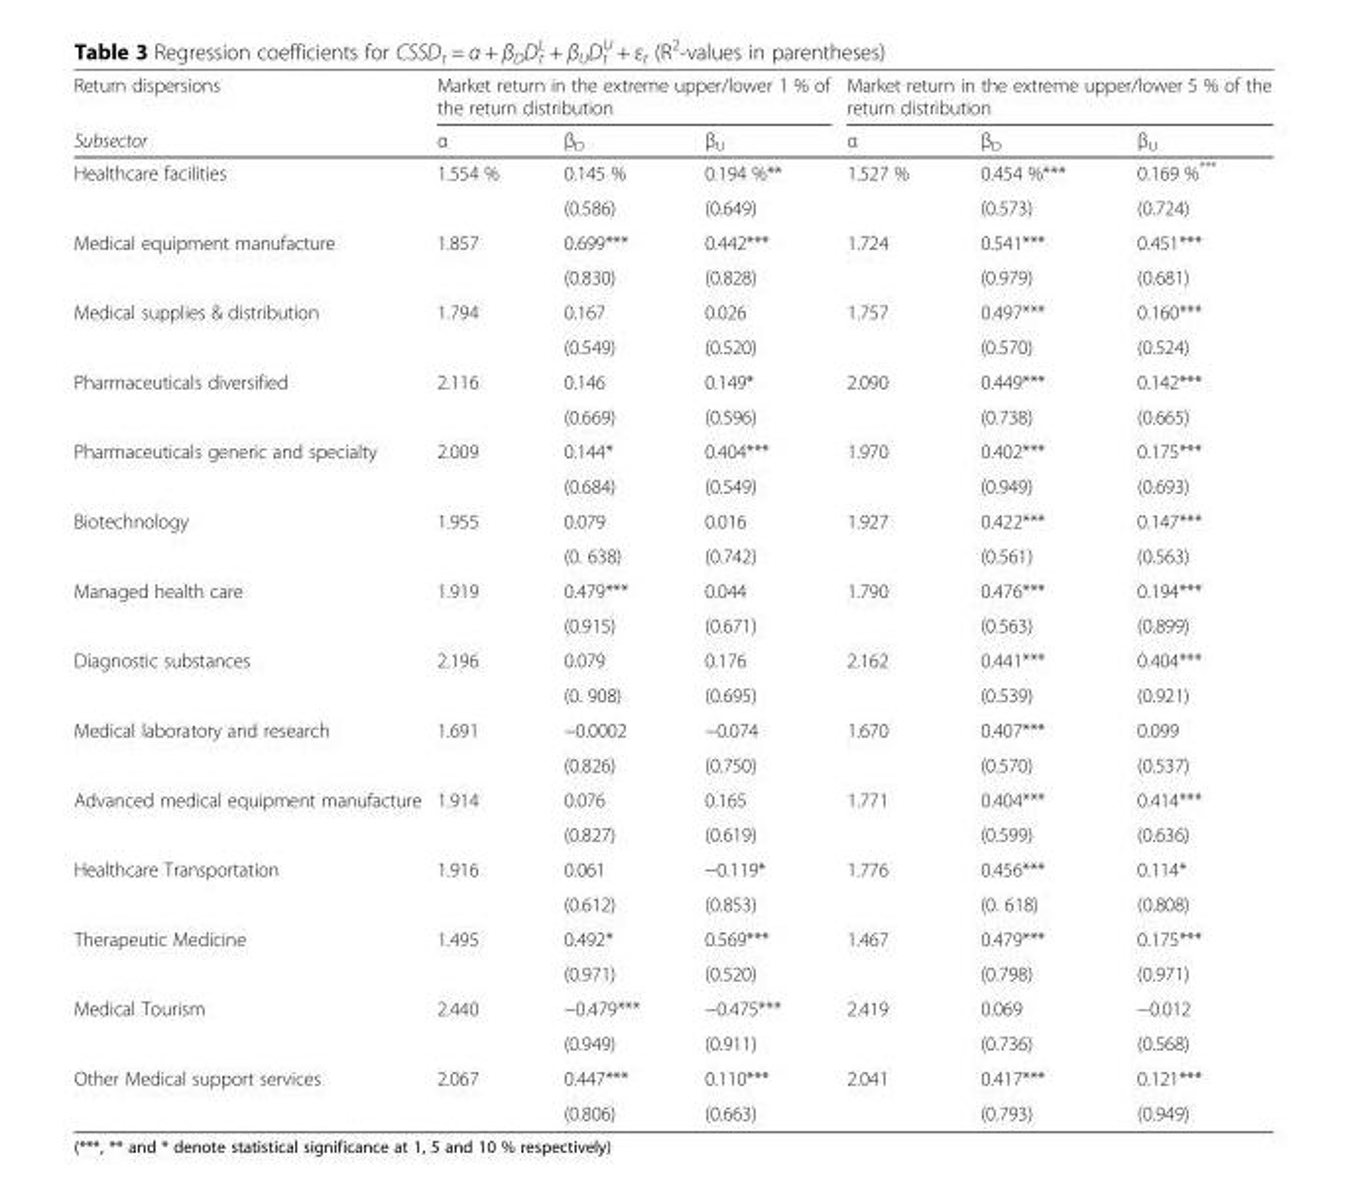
<table><thead><tr><td rowspan="2">Return dispersions Subsector</td><td colspan="3">Market return in the extreme upper/lower 1 % of the return distribution</td><td colspan="3">Market return in the extreme upper/lower 5 % of the return distribution</td></tr><tr><td>α</td><td>β<sub>D</sub></td><td>β<sub>U</sub></td><td>α</td><td>β<sub>D</sub></td><td>β<sub>U</sub></td></tr></thead><tbody><tr><td rowspan="2">Healthcare facilities</td><td>1.554 %</td><td>0.145 %</td><td>0.194 %**</td><td>1.527 %</td><td>0.454 %***</td><td>0.169 %***</td></tr><tr><td></td><td>(0.586)</td><td>(0.649)</td><td></td><td>(0.573)</td><td>(0.724)</td></tr><tr><td rowspan="2">Medical equipment manufacture</td><td>1.857</td><td>0.699***</td><td>0.442***</td><td>1.724</td><td>0.541***</td><td>0.451***</td></tr><tr><td></td><td>(0.830)</td><td>(0.828)</td><td></td><td>(0.979)</td><td>(0.681)</td></tr><tr><td rowspan="2">Medical supplies &amp; distribution</td><td>1.794</td><td>0.167</td><td>0.026</td><td>1.757</td><td>0.497***</td><td>0.160***</td></tr><tr><td></td><td>(0.549)</td><td>(0.520)</td><td></td><td>(0.570)</td><td>(0.524)</td></tr><tr><td rowspan="2">Pharmaceuticals diversified</td><td>2.116</td><td>0.146</td><td>0.149*</td><td>2.090</td><td>0.449***</td><td>0.142***</td></tr><tr><td></td><td>(0.669)</td><td>(0.596)</td><td></td><td>(0.738)</td><td>(0.665)</td></tr><tr><td rowspan="2">Pharmaceuticals generic and specialty</td><td>2.009</td><td>0.144*</td><td>0.404***</td><td>1.970</td><td>0.402***</td><td>0.175***</td></tr><tr><td></td><td>(0.684)</td><td>(0.549)</td><td></td><td>(0.949)</td><td>(0.693)</td></tr><tr><td rowspan="2">Biotechnology</td><td>1.955</td><td>0.079</td><td>0.016</td><td>1.927</td><td>0.422***</td><td>0.147***</td></tr><tr><td></td><td>(0. 638)</td><td>(0.742)</td><td></td><td>(0.561)</td><td>(0.563)</td></tr><tr><td rowspan="2">Managed health care</td><td>1.919</td><td>0.479***</td><td>0.044</td><td>1.790</td><td>0.476***</td><td>0.194***</td></tr><tr><td></td><td>(0.915)</td><td>(0.671)</td><td></td><td>(0.563)</td><td>(0.899)</td></tr><tr><td rowspan="2">Diagnostic substances</td><td>2.196</td><td>0.079</td><td>0.176</td><td>2.162</td><td>0.441***</td><td>0.404***</td></tr><tr><td></td><td>(0. 908)</td><td>(0.695)</td><td></td><td>(0.539)</td><td>(0.921)</td></tr><tr><td rowspan="2">Medical laboratory and research</td><td>1.691</td><td>−0.0002</td><td>−0.074</td><td>1.670</td><td>0.407***</td><td>0.099</td></tr><tr><td></td><td>(0.826)</td><td>(0.750)</td><td></td><td>(0.570)</td><td>(0.537)</td></tr><tr><td rowspan="2">Advanced medical equipment manufacture</td><td>1.914</td><td>0.076</td><td>0.165</td><td>1.771</td><td>0.404***</td><td>0.414***</td></tr><tr><td></td><td>(0.827)</td><td>(0.619)</td><td></td><td>(0.599)</td><td>(0.636)</td></tr><tr><td rowspan="2">Healthcare Transportation</td><td>1.916</td><td>0.061</td><td>−0.119*</td><td>1.776</td><td>0.456***</td><td>0.114*</td></tr><tr><td></td><td>(0.612)</td><td>(0.853)</td><td></td><td>(0. 618)</td><td>(0.808)</td></tr><tr><td rowspan="2">Therapeutic Medicine</td><td>1.495</td><td>0.492*</td><td>0.569***</td><td>1.467</td><td>0.479***</td><td>0.175***</td></tr><tr><td></td><td>(0.971)</td><td>(0.520)</td><td></td><td>(0.798)</td><td>(0.971)</td></tr><tr><td rowspan="2">Medical Tourism</td><td>2.440</td><td>−0.479***</td><td>−0.475***</td><td>2.419</td><td>0.069</td><td>−0.012</td></tr><tr><td></td><td>(0.949)</td><td>(0.911)</td><td></td><td>(0.736)</td><td>(0.568)</td></tr><tr><td rowspan="2">Other Medical support services</td><td>2.067</td><td>0.447***</td><td>0.110***</td><td>2.041</td><td>0.417***</td><td>0.121***</td></tr><tr><td></td><td>(0.806)</td><td>(0.663)</td><td></td><td>(0.793)</td><td>(0.949)</td></tr></tbody></table>